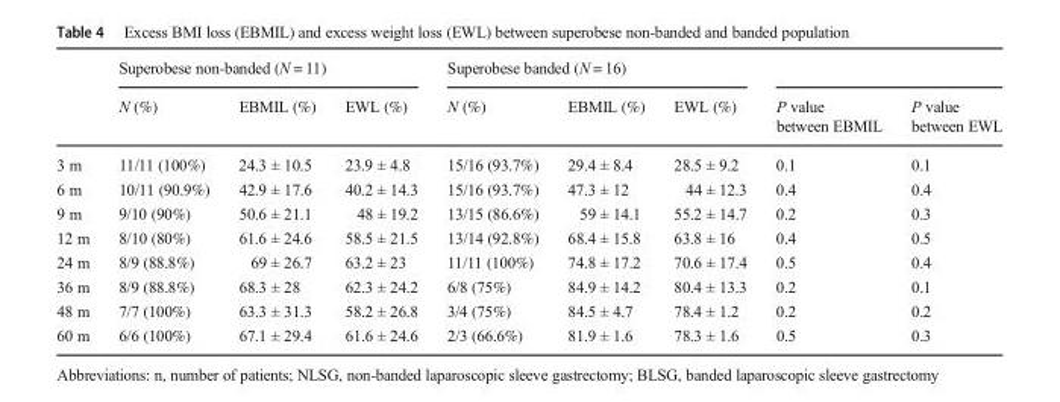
<table><thead><tr><td rowspan="2"></td><td colspan="3">Superobese non-banded (N = 11)</td><td colspan="3">Superobese banded (N = 16)</td><td rowspan="2">P value between EBMIL</td><td rowspan="2">P value between EWL</td></tr><tr><td>N (%)</td><td>EBMIL (%)</td><td>EWL (%)</td><td>N (%)</td><td>EBMIL (%)</td><td>EWL (%)</td></tr></thead><tbody><tr><td>3 m</td><td>11/11 (100%)</td><td>24.3 ± 10.5</td><td>23.9 ± 4.8</td><td>15/16 (93.7%)</td><td>29.4 ± 8.4</td><td>28.5 ± 9.2</td><td>0.1</td><td>0.1</td></tr><tr><td>6 m</td><td>10/11 (90.9%)</td><td>42.9 ± 17.6</td><td>40.2 ± 14.3</td><td>15/16 (93.7%)</td><td>47.3 ± 12</td><td>44 ± 12.3</td><td>0.4</td><td>0.4</td></tr><tr><td>9 m</td><td>9/10 (90%)</td><td>50.6 ± 21.1</td><td>48 ± 19.2</td><td>13/15 (86.6%)</td><td>59 ± 14.1</td><td>55.2 ± 14.7</td><td>0.2</td><td>0.3</td></tr><tr><td>12 m</td><td>8/10 (80%)</td><td>61.6 ± 24.6</td><td>58.5 ± 21.5</td><td>13/14 (92.8%)</td><td>68.4 ± 15.8</td><td>63.8 ± 16</td><td>0.4</td><td>0.5</td></tr><tr><td>24 m</td><td>8/9 (88.8%)</td><td>69 ± 26.7</td><td>63.2 ± 23</td><td>11/11 (100%)</td><td>74.8 ± 17.2</td><td>70.6 ± 17.4</td><td>0.5</td><td>0.4</td></tr><tr><td>36 m</td><td>8/9 (88.8%)</td><td>68.3 ± 28</td><td>62.3 ± 24.2</td><td>6/8 (75%)</td><td>84.9 ± 14.2</td><td>80.4 ± 13.3</td><td>0.2</td><td>0.1</td></tr><tr><td>48 m</td><td>7/7 (100%)</td><td>63.3 ± 31.3</td><td>58.2 ± 26.8</td><td>3/4 (75%)</td><td>84.5 ± 4.7</td><td>78.4 ± 1.2</td><td>0.2</td><td>0.2</td></tr><tr><td>60 m</td><td>6/6 (100%)</td><td>67.1 ± 29.4</td><td>61.6 ± 24.6</td><td>2/3 (66.6%)</td><td>81.9 ± 1.6</td><td>78.3 ± 1.6</td><td>0.5</td><td>0.3</td></tr></tbody></table>